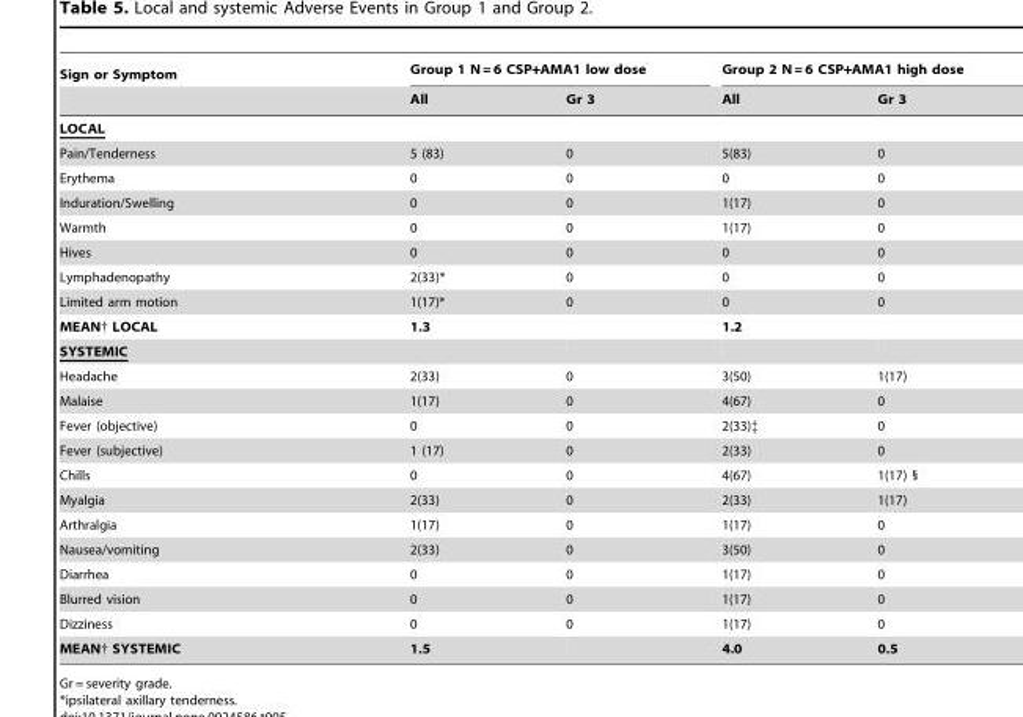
<table><thead><tr><td rowspan="2">Sign or Symptom</td><td colspan="2">Group 1 N = 6 CSP+AMA1 low dose</td><td colspan="2">Group 2 N = 6 CSP+AMA1 high dose</td></tr><tr><td>All</td><td>Gr 3</td><td>All</td><td>Gr 3</td></tr></thead><tbody><tr><td colspan="5">LOCAL</td></tr><tr><td>Pain/Tenderness</td><td>5 (83)</td><td>0</td><td>5(83)</td><td>0</td></tr><tr><td>Erythema</td><td>0</td><td>0</td><td>0</td><td>0</td></tr><tr><td>Induration/Swelling</td><td>0</td><td>0</td><td>1(17)</td><td>0</td></tr><tr><td>Warmth</td><td>0</td><td>0</td><td>1(17)</td><td>0</td></tr><tr><td>Hives</td><td>0</td><td>0</td><td>0</td><td>0</td></tr><tr><td>Lymphadenopathy</td><td>2(33)*</td><td>0</td><td>0</td><td>0</td></tr><tr><td>Limited arm motion</td><td>1(17)*</td><td>0</td><td>0</td><td>0</td></tr><tr><td>MEAN† LOCAL</td><td>1.3</td><td></td><td>1.2</td><td></td></tr><tr><td colspan="5">SYSTEMIC</td></tr><tr><td>Headache</td><td>2(33)</td><td>0</td><td>3(50)</td><td>1(17)</td></tr><tr><td>Malaise</td><td>1(17)</td><td>0</td><td>4(67)</td><td>0</td></tr><tr><td>Fever (objective)</td><td>0</td><td>0</td><td>2(33)‡</td><td>0</td></tr><tr><td>Fever (subjective)</td><td>1 (17)</td><td>0</td><td>2(33)</td><td>0</td></tr><tr><td>Chills</td><td>0</td><td>0</td><td>4(67)</td><td>1(17) §</td></tr><tr><td>Myalgia</td><td>2(33)</td><td>0</td><td>2(33)</td><td>1(17)</td></tr><tr><td>Arthralgia</td><td>1(17)</td><td>0</td><td>1(17)</td><td>0</td></tr><tr><td>Nausea/vomiting</td><td>2(33)</td><td>0</td><td>3(50)</td><td>0</td></tr><tr><td>Diarrhea</td><td>0</td><td>0</td><td>1(17)</td><td>0</td></tr><tr><td>Blurred vision</td><td>0</td><td>0</td><td>1(17)</td><td>0</td></tr><tr><td>Dizziness</td><td>0</td><td>0</td><td>1(17)</td><td>0</td></tr><tr><td>MEAN† SYSTEMIC</td><td>1.5</td><td></td><td>4.0</td><td>0.5</td></tr></tbody></table>